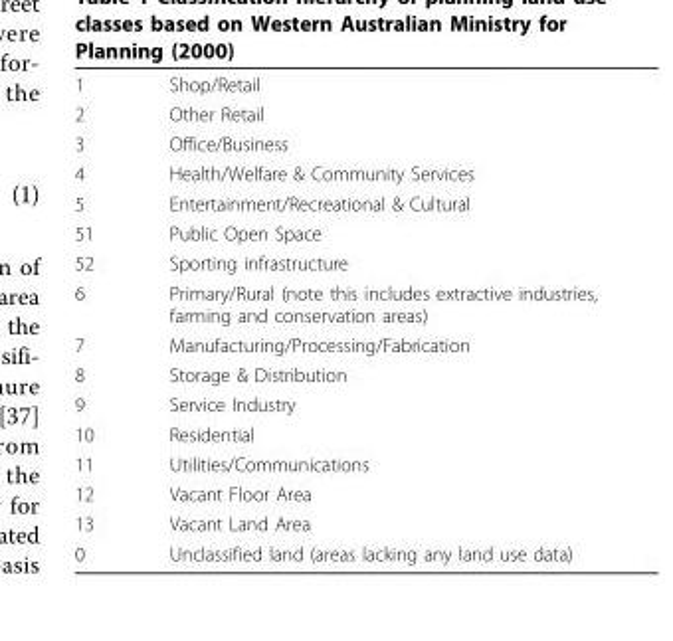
<table><tbody><tr><td>1</td><td>Shop/Retail</td></tr><tr><td>2</td><td>Other Retail</td></tr><tr><td>3</td><td>Office/Business</td></tr><tr><td>4</td><td>Health/Welfare &amp; Community Services</td></tr><tr><td>5</td><td>Entertainment/Recreational &amp; Cultural</td></tr><tr><td>51</td><td>Public Open Space</td></tr><tr><td>52</td><td>Sporting infrastructure</td></tr><tr><td>6</td><td>Primary/Rural (note this includes extractive industries, farming and conservation areas)</td></tr><tr><td>7</td><td>Manufacturing/Processing/Fabrication</td></tr><tr><td>8</td><td>Storage &amp; Distribution</td></tr><tr><td>9</td><td>Service Industry</td></tr><tr><td>10</td><td>Residential</td></tr><tr><td>11</td><td>Utilities/Communications</td></tr><tr><td>12</td><td>Vacant Floor Area</td></tr><tr><td>13</td><td>Vacant Land Area</td></tr><tr><td>0</td><td>Unclassified land (areas lacking any land use data)</td></tr></tbody></table>